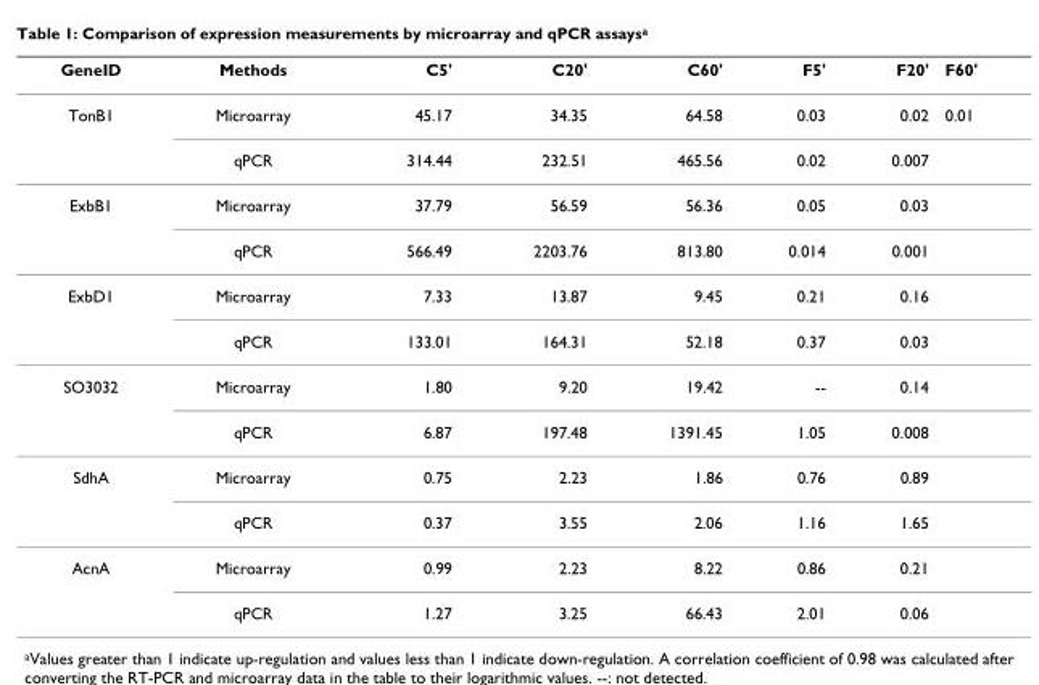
<table><thead><tr><td>GeneID</td><td>Methods</td><td>C5&#x27;</td><td>C20&#x27;</td><td>C60&#x27;</td><td>F5&#x27;</td><td>F20&#x27;</td><td>F60&#x27;</td></tr></thead><tbody><tr><td rowspan="2">TonB1</td><td>Microarray</td><td>45.17</td><td>34.35</td><td>64.58</td><td>0.03</td><td>0.02</td><td>0.01</td></tr><tr><td>qPCR</td><td>314.44</td><td>232.51</td><td>465.56</td><td>0.02</td><td>0.007</td><td></td></tr><tr><td rowspan="2">ExbB1</td><td>Microarray</td><td>37.79</td><td>56.59</td><td>56.36</td><td>0.05</td><td>0.03</td><td></td></tr><tr><td>qPCR</td><td>566.49</td><td>2203.76</td><td>813.80</td><td>0.014</td><td>0.001</td><td></td></tr><tr><td rowspan="2">ExbD1</td><td>Microarray</td><td>7.33</td><td>13.87</td><td>9.45</td><td>0.21</td><td>0.16</td><td></td></tr><tr><td>qPCR</td><td>133.01</td><td>164.31</td><td>52.18</td><td>0.37</td><td>0.03</td><td></td></tr><tr><td rowspan="2">SO3032</td><td>Microarray</td><td>1.80</td><td>9.20</td><td>19.42</td><td>--</td><td>0.14</td><td></td></tr><tr><td>qPCR</td><td>6.87</td><td>197.48</td><td>1391.45</td><td>1.05</td><td>0.008</td><td></td></tr><tr><td rowspan="2">SdhA</td><td>Microarray</td><td>0.75</td><td>2.23</td><td>1.86</td><td>0.76</td><td>0.89</td><td></td></tr><tr><td>qPCR</td><td>0.37</td><td>3.55</td><td>2.06</td><td>1.16</td><td>1.65</td><td></td></tr><tr><td rowspan="2">AcnA</td><td>Microarray</td><td>0.99</td><td>2.23</td><td>8.22</td><td>0.86</td><td>0.21</td><td></td></tr><tr><td>qPCR</td><td>1.27</td><td>3.25</td><td>66.43</td><td>2.01</td><td>0.06</td><td></td></tr></tbody></table>